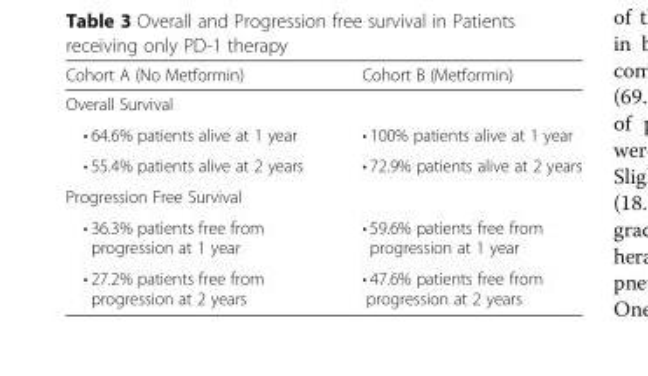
<table><thead><tr><td>Cohort A (No Metformin)</td><td>Cohort B (Metformin)</td></tr></thead><tbody><tr><td colspan="2">Overall Survival</td></tr><tr><td>• 64.6% patients alive at 1 year</td><td>• 100% patients alive at 1 year</td></tr><tr><td>• 55.4% patients alive at 2 years</td><td>• 72.9% patients alive at 2 years</td></tr><tr><td colspan="2">Progression Free Survival</td></tr><tr><td>• 36.3% patients free from progression at 1 year</td><td>• 59.6% patients free from progression at 1 year</td></tr><tr><td>• 27.2% patients free from progression at 2 years</td><td>• 47.6% patients free from progression at 2 years</td></tr></tbody></table>